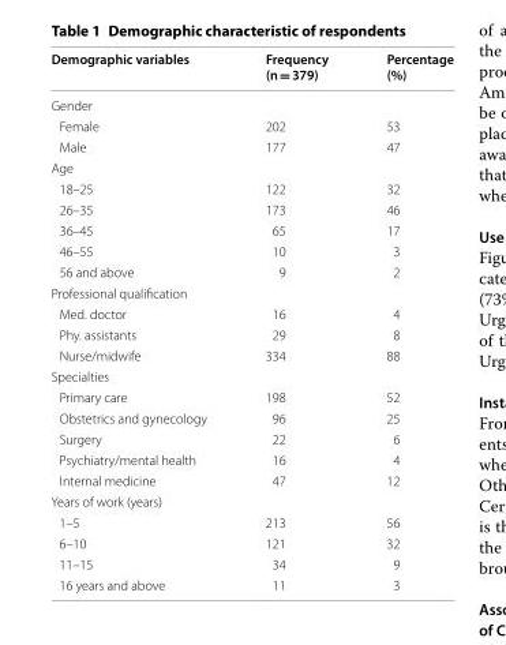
<table><thead><tr><td>Demographic variables</td><td>Frequency (n = 379)</td><td>Percentage (%)</td></tr></thead><tbody><tr><td colspan="3">Gender</td></tr><tr><td>Female</td><td>202</td><td>53</td></tr><tr><td>Male</td><td>177</td><td>47</td></tr><tr><td colspan="3">Age</td></tr><tr><td>18–25</td><td>122</td><td>32</td></tr><tr><td>26–35</td><td>173</td><td>46</td></tr><tr><td>36–45</td><td>65</td><td>17</td></tr><tr><td>46–55</td><td>10</td><td>3</td></tr><tr><td>56 and above</td><td>9</td><td>2</td></tr><tr><td colspan="3">Professional qualification</td></tr><tr><td>Med. doctor</td><td>16</td><td>4</td></tr><tr><td>Phy. assistants</td><td>29</td><td>8</td></tr><tr><td>Nurse/midwife</td><td>334</td><td>88</td></tr><tr><td colspan="3">Specialties</td></tr><tr><td>Primary care</td><td>198</td><td>52</td></tr><tr><td>Obstetrics and gynecology</td><td>96</td><td>25</td></tr><tr><td>Surgery</td><td>22</td><td>6</td></tr><tr><td>Psychiatry/mental health</td><td>16</td><td>4</td></tr><tr><td>Internal medicine</td><td>47</td><td>12</td></tr><tr><td colspan="3">Years of work (years)</td></tr><tr><td>1–5</td><td>213</td><td>56</td></tr><tr><td>6–10</td><td>121</td><td>32</td></tr><tr><td>11–15</td><td>34</td><td>9</td></tr><tr><td>16 years and above</td><td>11</td><td>3</td></tr></tbody></table>